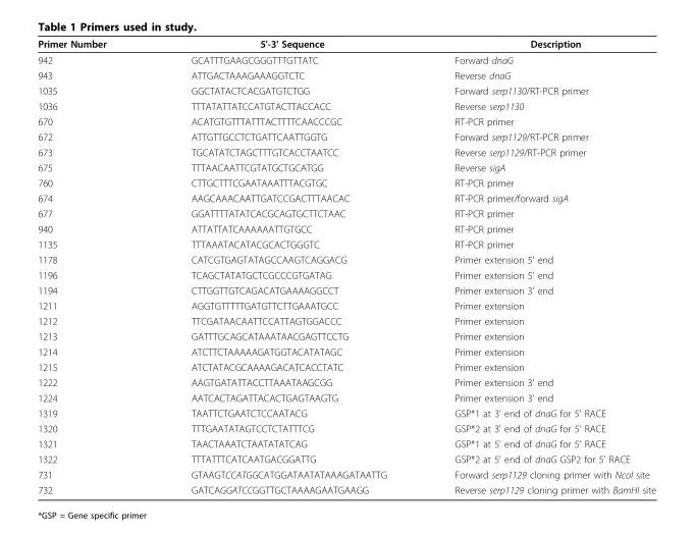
<table><thead><tr><td>Primer Number</td><td>5&#x27;-3&#x27; Sequence</td><td>Description</td></tr></thead><tbody><tr><td>942</td><td>GCATTTGAAGCGGGTTTGTTATC</td><td>Forward dnaG</td></tr><tr><td>943</td><td>ATTGACTAAAGAAAGGTCTC</td><td>Reverse dnaG</td></tr><tr><td>1035</td><td>GGCTATACTCACGATGTCTGG</td><td>Forward serp1130/RT-PCR primer</td></tr><tr><td>1036</td><td>TTTATATTATCCATGTACTTACCACC</td><td>Reverse serp1130</td></tr><tr><td>670</td><td>ACATGTGTTTATTTACTTTTCAACCCGC</td><td>RT-PCR primer</td></tr><tr><td>672</td><td>ATTGTTGCCTCTGATTCAATTGGTG</td><td>Forward serp1129/RT-PCR primer</td></tr><tr><td>673</td><td>TGCATATCTAGCTTTGTCACCTAATCC</td><td>Reverse serp1129/RT-PCR primer</td></tr><tr><td>675</td><td>TTTAACAATTCGTATGCTGCATGG</td><td>Reverse sigA</td></tr><tr><td>760</td><td>CTTGCTTTCGAATAAATTTACGTGC</td><td>RT-PCR primer</td></tr><tr><td>674</td><td>AAGCAAACAATTGATCCGACTTTAACAC</td><td>RT-PCR primer/forward sigA</td></tr><tr><td>677</td><td>GGATTTTATATCACGCAGTGCTTCTAAC</td><td>RT-PCR primer</td></tr><tr><td>940</td><td>ATTATTATCAAAAAATTGTGCC</td><td>RT-PCR primer</td></tr><tr><td>1135</td><td>TTTAAATACATACGCACTGGGTC</td><td>RT-PCR primer</td></tr><tr><td>1178</td><td>CATCGTGAGTATAGCCAAGTCAGGACG</td><td>Primer extension 5&#x27; end</td></tr><tr><td>1196</td><td>TCAGCTATATGCTCGCCCGTGATAG</td><td>Primer extension 5&#x27; end</td></tr><tr><td>1194</td><td>CTTGGTTGTCAGACATGAAAAGGCCT</td><td>Primer extension 3&#x27; end</td></tr><tr><td>1211</td><td>AGGTGTTTTTGATGTTCTTGAAATGCC</td><td>Primer extension</td></tr><tr><td>1212</td><td>TTCGATAACAATTCCATTAGTGGACCC</td><td>Primer extension</td></tr><tr><td>1213</td><td>GATTTGCAGCATAAATAACGAGTTCCTG</td><td>Primer extension</td></tr><tr><td>1214</td><td>ATCTTCTAAAAAGATGGTACATATAGC</td><td>Primer extension</td></tr><tr><td>1215</td><td>ATCTATACGCAAAAGACATCACCTATC</td><td>Primer extension</td></tr><tr><td>1222</td><td>AAGTGATATTACCTTAAATAAGCGG</td><td>Primer extension 3&#x27; end</td></tr><tr><td>1224</td><td>AATCACTAGATTACACTGAGTAAGTG</td><td>Primer extension 3&#x27; end</td></tr><tr><td>1319</td><td>TAATTCTGAATCTCCAATACG</td><td>GSP*1 at 3&#x27; end of dnaG for 5&#x27; RACE</td></tr><tr><td>1320</td><td>TTTGAATATAGTCCTCTATTTCG</td><td>GSP*2 at 3&#x27; end of dnaG for 5&#x27; RACE</td></tr><tr><td>1321</td><td>TAACTAAATCTAATATATCAG</td><td>GSP*1 at 5&#x27; end of dnaG for 5&#x27; RACE</td></tr><tr><td>1322</td><td>TTTATTTCATCAATGACGGATTG</td><td>GSP*2 at 5&#x27; end of dnaG GSP2 for 5&#x27; RACE</td></tr><tr><td>731</td><td>GTAAGTCCATGGCATGGATAATATAAAGATAATTG</td><td>Forward serp1129 cloning primer with NcoI site</td></tr><tr><td>732</td><td>GATCAGGATCCGGTTGCTAAAAGAATGAAGG</td><td>Reverse serp1129 cloning primer with BamHI site</td></tr></tbody></table>